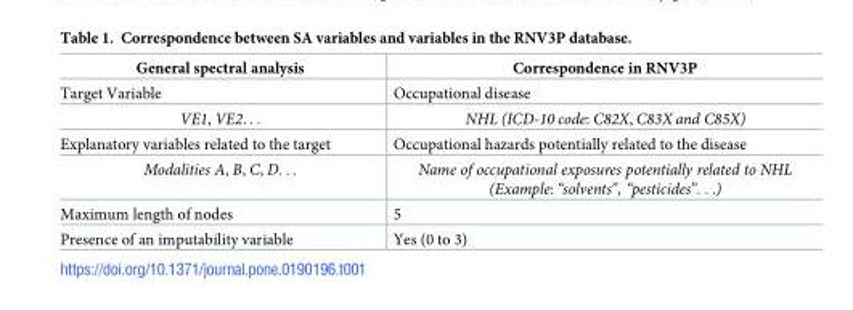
<table><thead><tr><td>General spectral analysis</td><td>Correspondence in RNV3P</td></tr></thead><tbody><tr><td>Target Variable</td><td>Occupational disease</td></tr><tr><td>VE1, VE2.. .</td><td>NHL (ICD-10 code: C82X, C83X and C85X)</td></tr><tr><td>Explanatory variables related to the target</td><td>Occupational hazards potentially related to the disease</td></tr><tr><td>Modalities A, B, C, D. . .</td><td>Name of occupational exposures potentially related to NHL (Example: “solvents”, “pesticides”. . .)</td></tr><tr><td>Maximum length of nodes</td><td>5</td></tr><tr><td>Presence of an imputability variable</td><td>Yes (0 to 3)</td></tr></tbody></table>